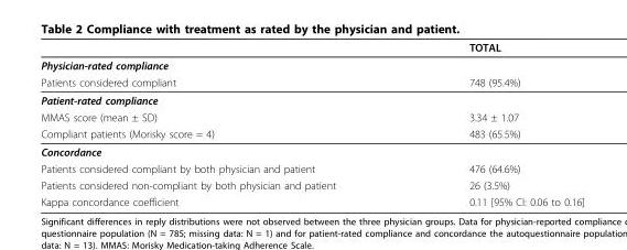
<table><thead><tr><td></td><td>TOTAL</td></tr></thead><tbody><tr><td colspan="2">Physician-rated compliance</td></tr><tr><td>Patients considered compliant</td><td>748 (95.4%)</td></tr><tr><td colspan="2">Patient-rated compliance</td></tr><tr><td>MMAS score (mean ± SD)</td><td>3.34 ± 1.07</td></tr><tr><td>Compliant patients (Morisky score = 4)</td><td>483 (65.5%)</td></tr><tr><td colspan="2">Concordance</td></tr><tr><td>Patients considered compliant by both physician and patient</td><td>476 (64.6%)</td></tr><tr><td>Patients considered non-compliant by both physician and patient</td><td>26 (3.5%)</td></tr><tr><td>Kappa concordance coefficient</td><td>0.11 [95% CI: 0.06 to 0.16]</td></tr></tbody></table>